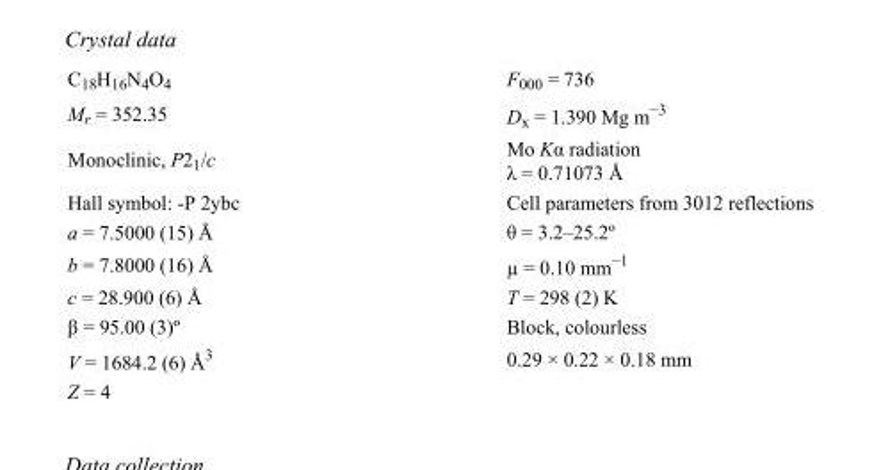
<table><tbody><tr><td>C<sub>18</sub>H<sub>16</sub>N<sub>4</sub>O<sub>4</sub></td><td>F000 = 736</td></tr><tr><td>M<sub>r</sub> = 352.35</td><td>D<sub>x</sub> = 1.390 Mg m<sup>−3</sup></td></tr><tr><td>Monoclinic, P2<sub>1</sub>/c</td><td>Mo Kα radiation λ = 0.71073 Å</td></tr><tr><td>Hall symbol: -P 2ybc</td><td>Cell parameters from 3012 reflections</td></tr><tr><td>a = 7.5000 (15) Å</td><td>θ = 3.2–25.2º</td></tr><tr><td>b = 7.8000 (16) Å</td><td>µ = 0.10 mm<sup>−1</sup></td></tr><tr><td>c = 28.900 (6) Å</td><td>T = 298 (2) K</td></tr><tr><td>β = 95.00 (3)º</td><td>Block, colourless</td></tr><tr><td>V = 1684.2 (6) Å<sup>3</sup></td><td>0.29 × 0.22 × 0.18 mm</td></tr><tr><td>Z = 4</td><td></td></tr></tbody></table>